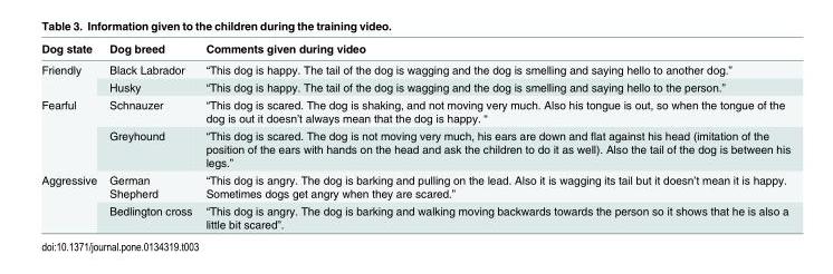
<table><thead><tr><td>Dog state</td><td>Dog breed</td><td>Comments given during video</td></tr></thead><tbody><tr><td rowspan="2">Friendly</td><td>Black Labrador</td><td>“This dog is happy. The tail of the dog is wagging and the dog is smelling and saying hello to another dog.”</td></tr><tr><td>Husky</td><td>“This dog is happy. The tail of the dog is wagging and the dog is smelling and saying hello to the person.”</td></tr><tr><td rowspan="2">Fearful</td><td>Schnauzer</td><td>“This dog is scared. The dog is shaking, and not moving very much. Also his tongue is out, so when the tongue of the dog is out it doesn’t always mean that the dog is happy. “</td></tr><tr><td>Greyhound</td><td>“This dog is scared. The dog is not moving very much, his ears are down and flat against his head (imitation of the position of the ears with hands on the head and ask the children to do it as well). Also the tail of the dog is between his legs.”</td></tr><tr><td rowspan="2">Aggressive</td><td>German Shepherd</td><td>“This dog is angry. The dog is barking and pulling on the lead. Also it is wagging its tail but it doesn’t mean it is happy. Sometimes dogs get angry when they are scared.”</td></tr><tr><td>Bedlington cross</td><td>“This dog is angry. The dog is barking and walking moving backwards towards the person so it shows that he is also a little bit scared”.</td></tr></tbody></table>